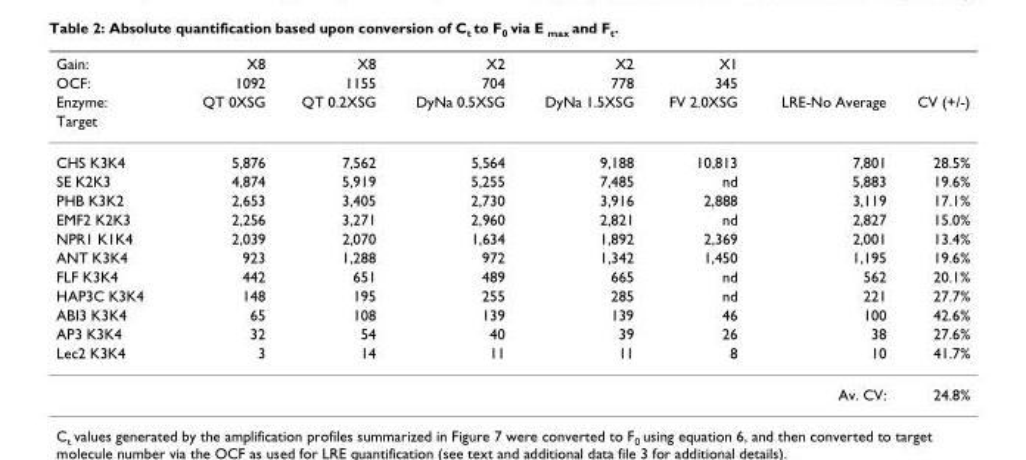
<table><thead><tr><td rowspan="4">Gain: OCF: Enzyme: Target</td><td rowspan="4">X8 1092 QT 0XSG</td><td rowspan="4">X8 1155 QT 0.2XSG</td><td rowspan="4">X2 704 DyNa 0.5XSG</td><td rowspan="4">X2 778 DyNa 1.5XSG</td><td rowspan="4">X1 345 FV 2.0XSG</td><td rowspan="4">LRE-No Average</td><td rowspan="4">CV (+/-)</td></tr><tr></tr><tr></tr><tr></tr></thead><tbody><tr><td>CHS K3K4</td><td>5,876</td><td>7,562</td><td>5,564</td><td>9,188</td><td>10,813</td><td>7,801</td><td>28.5%</td></tr><tr><td>SE K2K3</td><td>4,874</td><td>5,919</td><td>5,255</td><td>7,485</td><td>nd</td><td>5,883</td><td>19.6%</td></tr><tr><td>PHB K3K2</td><td>2,653</td><td>3,405</td><td>2,730</td><td>3,916</td><td>2,888</td><td>3,119</td><td>17.1%</td></tr><tr><td>EMF2 K2K3</td><td>2,256</td><td>3,271</td><td>2,960</td><td>2,821</td><td>nd</td><td>2,827</td><td>15.0%</td></tr><tr><td>NPR1 K1K4</td><td>2,039</td><td>2,070</td><td>1,634</td><td>1,892</td><td>2,369</td><td>2,001</td><td>13.4%</td></tr><tr><td>ANT K3K4</td><td>923</td><td>1,288</td><td>972</td><td>1,342</td><td>1,450</td><td>1,195</td><td>19.6%</td></tr><tr><td>FLF K3K4</td><td>442</td><td>651</td><td>489</td><td>665</td><td>nd</td><td>562</td><td>20.1%</td></tr><tr><td>HAP3C K3K4</td><td>148</td><td>195</td><td>255</td><td>285</td><td>nd</td><td>221</td><td>27.7%</td></tr><tr><td>ABI3 K3K4</td><td>65</td><td>108</td><td>139</td><td>139</td><td>46</td><td>100</td><td>42.6%</td></tr><tr><td>AP3 K3K4</td><td>32</td><td>54</td><td>40</td><td>39</td><td>26</td><td>38</td><td>27.6%</td></tr><tr><td rowspan="2">Lec2 K3K4</td><td>3</td><td>14</td><td>11</td><td>11</td><td>8</td><td>10</td><td>41.7%</td></tr><tr><td></td><td></td><td></td><td></td><td></td><td>Av. CV:</td><td>24.8%</td></tr></tbody></table>